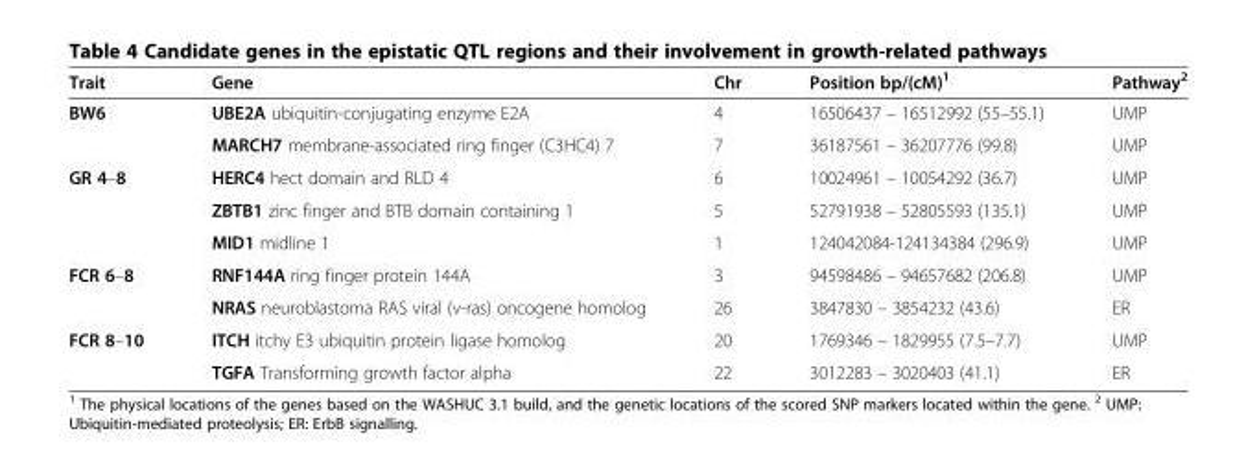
<table><thead><tr><td>Trait</td><td>Gene</td><td>Chr</td><td>Position bp/(cM)<sup>1</sup></td><td>Pathway<sup>2</sup></td></tr></thead><tbody><tr><td rowspan="2">BW6</td><td>UBE2A ubiquitin-conjugating enzyme E2A</td><td>4</td><td>16506437 – 16512992 (55–55.1)</td><td>UMP</td></tr><tr><td>MARCH7 membrane-associated ring finger (C3HC4) 7</td><td>7</td><td>36187561 – 36207776 (99.8)</td><td>UMP</td></tr><tr><td rowspan="3">GR 4–8</td><td>HERC4 hect domain and RLD 4</td><td>6</td><td>10024961 – 10054292 (36.7)</td><td>UMP</td></tr><tr><td>ZBTB1 zinc finger and BTB domain containing 1</td><td>5</td><td>52791938 – 52805593 (135.1)</td><td>UMP</td></tr><tr><td>MID1 midline 1</td><td>1</td><td>124042084-124134384 (296.9)</td><td>UMP</td></tr><tr><td rowspan="2">FCR 6–8</td><td>RNF144A ring finger protein 144A</td><td>3</td><td>94598486 – 94657682 (206.8)</td><td>UMP</td></tr><tr><td>NRAS neuroblastoma RAS viral (v-ras) oncogene homolog</td><td>26</td><td>3847830 – 3854232 (43.6)</td><td>ER</td></tr><tr><td rowspan="2">FCR 8–10</td><td>ITCH itchy E3 ubiquitin protein ligase homolog</td><td>20</td><td>1769346 – 1829955 (7.5–7.7)</td><td>UMP</td></tr><tr><td>TGFA Transforming growth factor alpha</td><td>22</td><td>3012283 – 3020403 (41.1)</td><td>ER</td></tr></tbody></table>